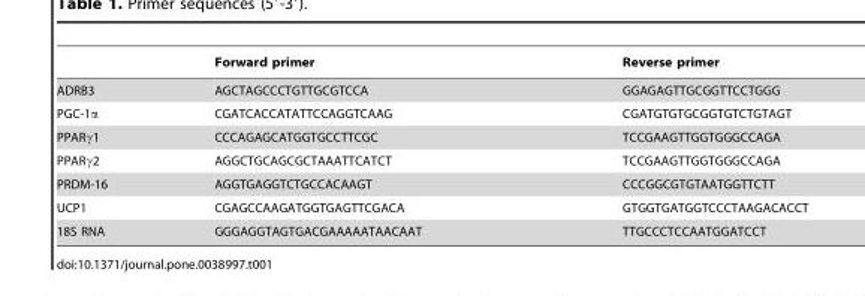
<table><thead><tr><td></td><td>Forward primer</td><td>Reverse primer</td></tr></thead><tbody><tr><td>ADRB3</td><td>AGCTAGCCCTGTTGCGTCCA</td><td>GGAGAGTTGCGGTTCCTGGG</td></tr><tr><td>PGC-1α</td><td>CGATCACCATATTCCAGGTCAAG</td><td>CGATGTGTGCGGTGTCTGTAGT</td></tr><tr><td>PPARγ1</td><td>CCCAGAGCATGGTGCCTTCGC</td><td>TCCGAAGTTGGTGGGCCAGA</td></tr><tr><td>PPARγ2</td><td>AGGCTGCAGCGCTAAATTCATCT</td><td>TCCGAAGTTGGTGGGCCAGA</td></tr><tr><td>PRDM-16</td><td>AGGTGAGGTCTGCCACAAGT</td><td>CCCGGCGTGTAATGGTTCTT</td></tr><tr><td>UCP1</td><td>CGAGCCAAGATGGTGAGTTCGACA</td><td>GTGGTGATGGTCCCTAAGACACCT</td></tr><tr><td>18S RNA</td><td>GGGAGGTAGTGACGAAAAATAACAAT</td><td>TTGCCCTCCAATGGATCCT</td></tr></tbody></table>